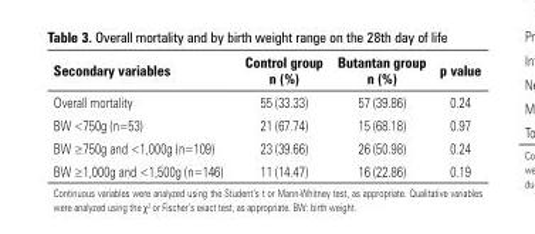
<table><thead><tr><td>Secondary variables</td><td>Control group n (%)</td><td>Butantan group n (%)</td><td>p value</td></tr></thead><tbody><tr><td>Overall mortality</td><td>55 (33.33)</td><td>57 (39.86)</td><td>0.24</td></tr><tr><td>BW &lt;750g (n=53)</td><td>21 (67.74)</td><td>15 (68.18)</td><td>0.97</td></tr><tr><td>BW ≥750g and &lt;1,000g (n=109)</td><td>23 (39.66)</td><td>26 (50.98)</td><td>0.24</td></tr><tr><td>BW ≥1,000g and &lt;1,500g (n=146)</td><td>11 (14.47)</td><td>16 (22.86)</td><td>0.19</td></tr></tbody></table>